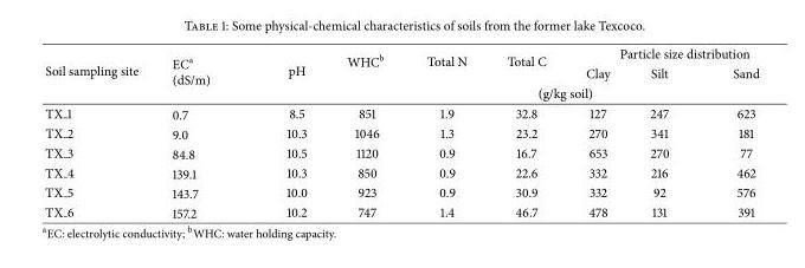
<table><thead><tr><td rowspan="3">Soil sampling site</td><td rowspan="3">EC<sup>a</sup> (dS/m)</td><td rowspan="3">pH</td><td rowspan="2">WHC<sup>b</sup></td><td rowspan="2">Total N</td><td rowspan="2">Total C</td><td colspan="3">Particle size distribution</td></tr><tr><td>Clay</td><td>Silt</td><td>Sand</td></tr><tr><td colspan="6">(g/kg soil)</td></tr></thead><tbody><tr><td>TX 1</td><td>0.7</td><td>8.5</td><td>851</td><td>1.9</td><td>32.8</td><td>127</td><td>247</td><td>623</td></tr><tr><td>TX 2</td><td>9.0</td><td>10.3</td><td>1046</td><td>1.3</td><td>23.2</td><td>270</td><td>341</td><td>181</td></tr><tr><td>TX 3</td><td>84.8</td><td>10.5</td><td>1120</td><td>0.9</td><td>16.7</td><td>653</td><td>270</td><td>77</td></tr><tr><td>TX 4</td><td>139.1</td><td>10.3</td><td>850</td><td>0.9</td><td>22.6</td><td>332</td><td>216</td><td>462</td></tr><tr><td>TX 5</td><td>143.7</td><td>10.0</td><td>923</td><td>0.9</td><td>30.9</td><td>332</td><td>92</td><td>576</td></tr><tr><td>TX 6</td><td>157.2</td><td>10.2</td><td>747</td><td>1.4</td><td>46.7</td><td>478</td><td>131</td><td>391</td></tr></tbody></table>